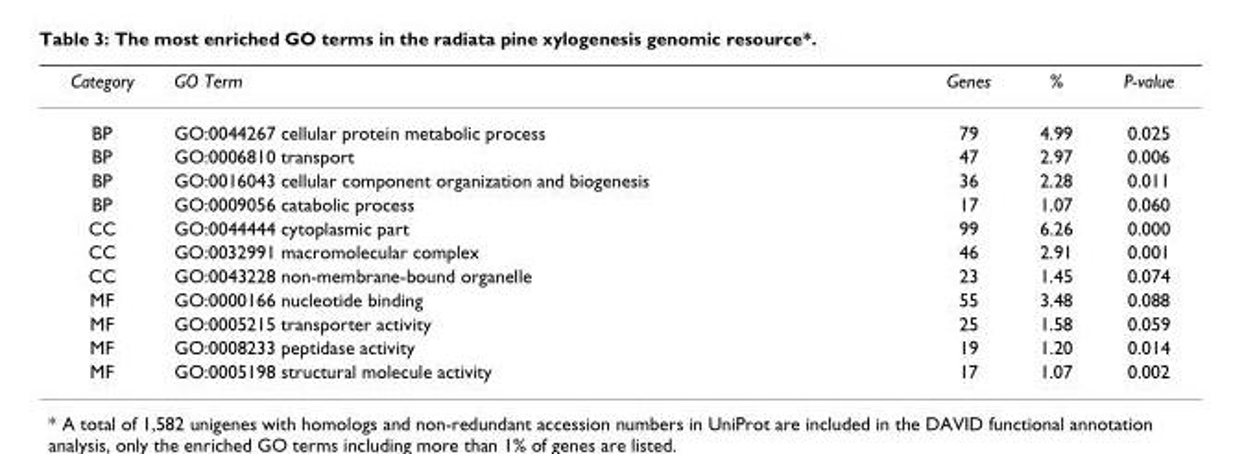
<table><thead><tr><td>Category</td><td>GO Term</td><td>Genes</td><td>%</td><td>P-value</td></tr></thead><tbody><tr><td>BP</td><td>GO:0044267 cellular protein metabolic process</td><td>79</td><td>4.99</td><td>0.025</td></tr><tr><td>BP</td><td>GO:0006810 transport</td><td>47</td><td>2.97</td><td>0.006</td></tr><tr><td>BP</td><td>GO:0016043 cellular component organization and biogenesis</td><td>36</td><td>2.28</td><td>0.011</td></tr><tr><td>BP</td><td>GO:0009056 catabolic process</td><td>17</td><td>1.07</td><td>0.060</td></tr><tr><td>CC</td><td>GO:0044444 cytoplasmic part</td><td>99</td><td>6.26</td><td>0.000</td></tr><tr><td>CC</td><td>GO:0032991 macromolecular complex</td><td>46</td><td>2.91</td><td>0.001</td></tr><tr><td>CC</td><td>GO:0043228 non-membrane-bound organelle</td><td>23</td><td>1.45</td><td>0.074</td></tr><tr><td>MF</td><td>GO:0000166 nucleotide binding</td><td>55</td><td>3.48</td><td>0.088</td></tr><tr><td>MF</td><td>GO:0005215 transporter activity</td><td>25</td><td>1.58</td><td>0.059</td></tr><tr><td>MF</td><td>GO:0008233 peptidase activity</td><td>19</td><td>1.20</td><td>0.014</td></tr><tr><td>MF</td><td>GO:0005198 structural molecule activity</td><td>17</td><td>1.07</td><td>0.002</td></tr></tbody></table>